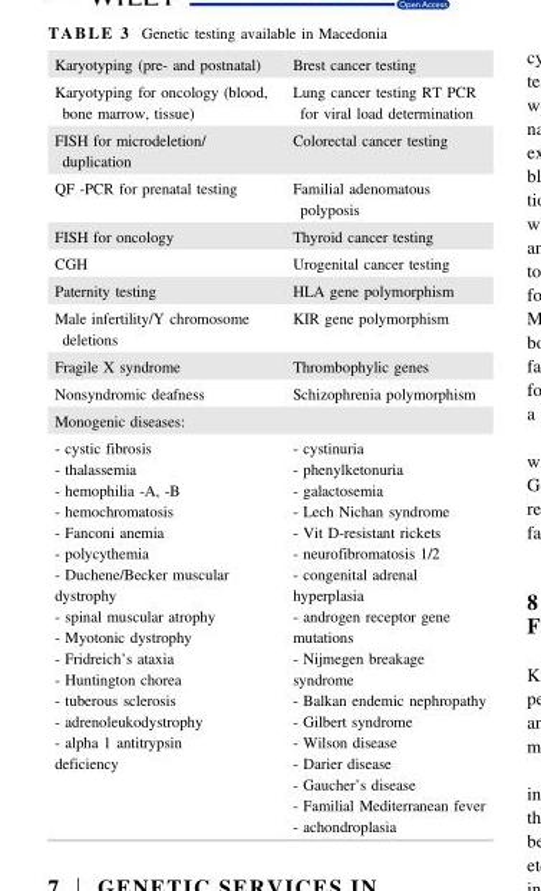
<table><tbody><tr><td>Karyotyping (pre- and postnatal)</td><td>Brest cancer testing</td></tr><tr><td>Karyotyping for oncology (blood, bone marrow, tissue)</td><td>Lung cancer testing RT PCR for viral load determination</td></tr><tr><td>FISH for microdeletion/ duplication</td><td>Colorectal cancer testing</td></tr><tr><td>QF -PCR for prenatal testing</td><td>Familial adenomatous polyposis</td></tr><tr><td>FISH for oncology</td><td>Thyroid cancer testing</td></tr><tr><td>CGH</td><td>Urogenital cancer testing</td></tr><tr><td>Paternity testing</td><td>HLA gene polymorphism</td></tr><tr><td>Male infertility/Y chromosome deletions</td><td>KIR gene polymorphism</td></tr><tr><td>Fragile X syndrome</td><td>Thrombophylic genes</td></tr><tr><td>Nonsyndromic deafness</td><td>Schizophrenia polymorphism</td></tr><tr><td colspan="2">Monogenic diseases:</td></tr><tr><td>- cystic fibrosis - thalassemia - hemophilia -A, -B - hemochromatosis - Fanconi anemia - polycythemia - Duchene/Becker muscular dystrophy - spinal muscular atrophy - Myotonic dystrophy - Fridreich’s ataxia - Huntington chorea - tuberous sclerosis - adrenoleukodystrophy - alpha 1 antitrypsin deficiency</td><td>- cystinuria - phenylketonuria - galactosemia - Lech Nichan syndrome - Vit D-resistant rickets - neurofibromatosis 1/2 - congenital adrenal hyperplasia - androgen receptor gene mutations - Nijmegen breakage syndrome - Balkan endemic nephropathy - Gilbert syndrome - Wilson disease - Darier disease - Gaucher’s disease - Familial Mediterranean fever - achondroplasia</td></tr></tbody></table>